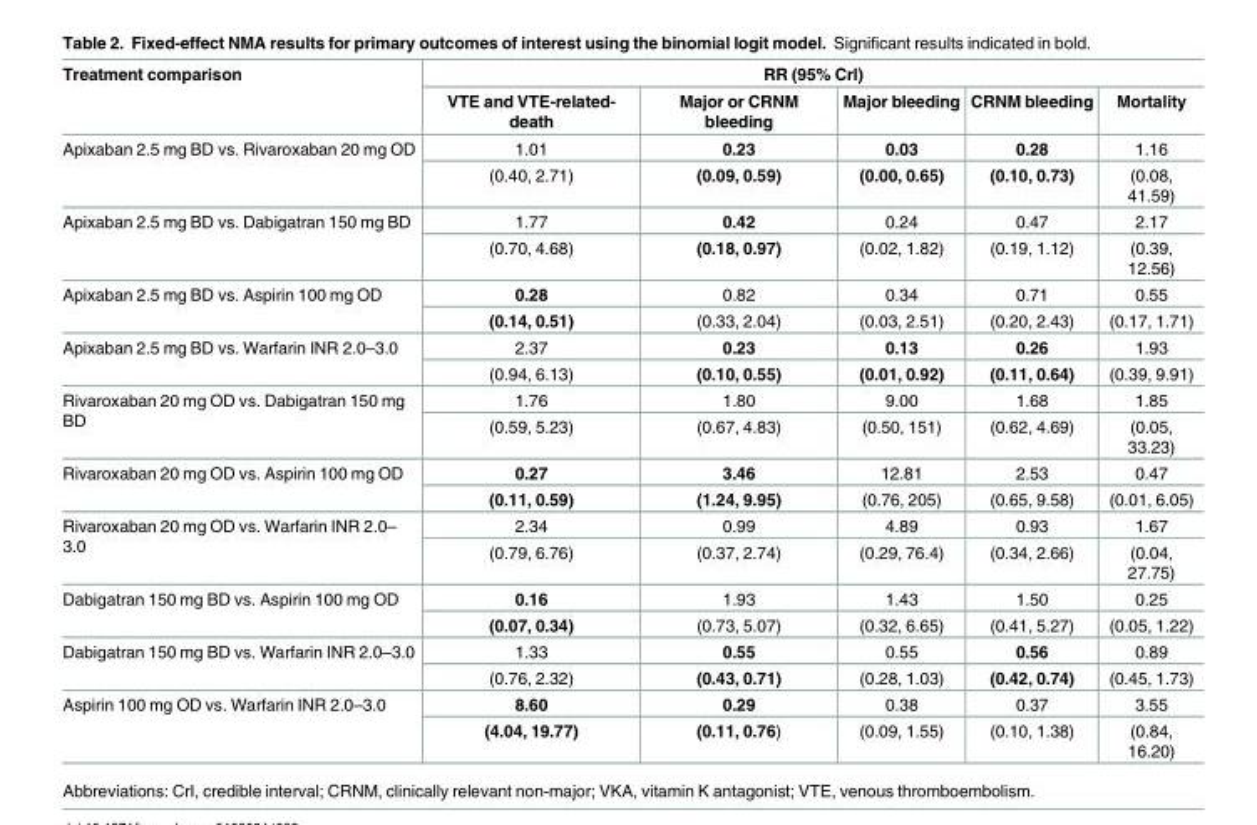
<table><thead><tr><td rowspan="2">Treatment comparison</td><td colspan="5">RR (95% Crl)</td></tr><tr><td>VTE and VTE-related- death</td><td>Major or CRNM bleeding</td><td>Major bleeding</td><td>CRNM bleeding</td><td>Mortality</td></tr></thead><tbody><tr><td rowspan="2">Apixaban 2.5 mg BD vs. Rivaroxaban 20 mg OD</td><td>1.01</td><td>0.23</td><td>0.03</td><td>0.28</td><td>1.16</td></tr><tr><td>(0.40, 2.71)</td><td>(0.09, 0.59)</td><td>(0.00, 0.65)</td><td>(0.10, 0.73)</td><td>(0.08, 41.59)</td></tr><tr><td rowspan="2">Apixaban 2.5 mg BD vs. Dabigatran 150 mg BD</td><td>1.77</td><td>0.42</td><td>0.24</td><td>0.47</td><td>2.17</td></tr><tr><td>(0.70, 4.68)</td><td>(0.18, 0.97)</td><td>(0.02, 1.82)</td><td>(0.19, 1.12)</td><td>(0.39, 12.56)</td></tr><tr><td rowspan="2">Apixaban 2.5 mg BD vs. Aspirin 100 mg OD</td><td>0.28</td><td>0.82</td><td>0.34</td><td>0.71</td><td>0.55</td></tr><tr><td>(0.14, 0.51)</td><td>(0.33, 2.04)</td><td>(0.03, 2.51)</td><td>(0.20, 2.43)</td><td>(0.17, 1.71)</td></tr><tr><td rowspan="2">Apixaban 2.5 mg BD vs. Warfarin INR 2.0–3.0</td><td>2.37</td><td>0.23</td><td>0.13</td><td>0.26</td><td>1.93</td></tr><tr><td>(0.94, 6.13)</td><td>(0.10, 0.55)</td><td>(0.01, 0.92)</td><td>(0.11, 0.64)</td><td>(0.39, 9.91)</td></tr><tr><td rowspan="2">Rivaroxaban 20 mg OD vs. Dabigatran 150 mg BD</td><td>1.76</td><td>1.80</td><td>9.00</td><td>1.68</td><td>1.85</td></tr><tr><td>(0.59, 5.23)</td><td>(0.67, 4.83)</td><td>(0.50, 151)</td><td>(0.62, 4.69)</td><td>(0.05, 33.23)</td></tr><tr><td rowspan="2">Rivaroxaban 20 mg OD vs. Aspirin 100 mg OD</td><td>0.27</td><td>3.46</td><td>12.81</td><td>2.53</td><td>0.47</td></tr><tr><td>(0.11, 0.59)</td><td>(1.24, 9.95)</td><td>(0.76, 205)</td><td>(0.65, 9.58)</td><td>(0.01, 6.05)</td></tr><tr><td rowspan="2">Rivaroxaban 20 mg OD vs. Warfarin INR 2.0– 3.0</td><td>2.34</td><td>0.99</td><td>4.89</td><td>0.93</td><td>1.67</td></tr><tr><td>(0.79, 6.76)</td><td>(0.37, 2.74)</td><td>(0.29, 76.4)</td><td>(0.34, 2.66)</td><td>(0.04, 27.75)</td></tr><tr><td rowspan="2">Dabigatran 150 mg BD vs. Aspirin 100 mg OD</td><td>0.16</td><td>1.93</td><td>1.43</td><td>1.50</td><td>0.25</td></tr><tr><td>(0.07, 0.34)</td><td>(0.73, 5.07)</td><td>(0.32, 6.65)</td><td>(0.41, 5.27)</td><td>(0.05, 1.22)</td></tr><tr><td rowspan="2">Dabigatran 150 mg BD vs. Warfarin INR 2.0–3.0</td><td>1.33</td><td>0.55</td><td>0.55</td><td>0.56</td><td>0.89</td></tr><tr><td>(0.76, 2.32)</td><td>(0.43, 0.71)</td><td>(0.28, 1.03)</td><td>(0.42, 0.74)</td><td>(0.45, 1.73)</td></tr><tr><td rowspan="2">Aspirin 100 mg OD vs. Warfarin INR 2.0–3.0</td><td>8.60</td><td>0.29</td><td>0.38</td><td>0.37</td><td>3.55</td></tr><tr><td>(4.04, 19.77)</td><td>(0.11, 0.76)</td><td>(0.09, 1.55)</td><td>(0.10, 1.38)</td><td>(0.84, 16.20)</td></tr></tbody></table>